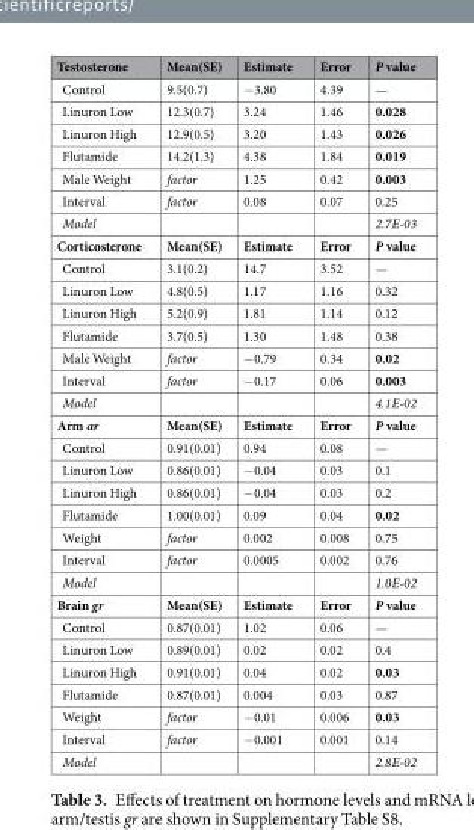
<table><thead><tr><td>Testosterone</td><td>Mean(SE)</td><td>Estimate</td><td>Error</td><td>P value</td></tr></thead><tbody><tr><td>Control</td><td>9.5(0.7)</td><td>−3.80</td><td>4.39</td><td>—</td></tr><tr><td>Linuron Low</td><td>12.3(0.7)</td><td>3.24</td><td>1.46</td><td>0.028</td></tr><tr><td>Linuron High</td><td>12.9(0.5)</td><td>3.20</td><td>1.43</td><td>0.026</td></tr><tr><td>Flutamide</td><td>14.2(1.3)</td><td>4.38</td><td>1.84</td><td>0.019</td></tr><tr><td>Male Weight</td><td>factor</td><td>1.25</td><td>0.42</td><td>0.003</td></tr><tr><td>Interval</td><td>factor</td><td>0.08</td><td>0.07</td><td>0.25</td></tr><tr><td>Model</td><td></td><td></td><td></td><td>2.7E-03</td></tr><tr><td>Corticosterone</td><td>Mean(SE)</td><td>Estimate</td><td>Error</td><td>P value</td></tr><tr><td>Control</td><td>3.1(0.2)</td><td>14.7</td><td>3.52</td><td>—</td></tr><tr><td>Linuron Low</td><td>4.8(0.5)</td><td>1.17</td><td>1.16</td><td>0.32</td></tr><tr><td>Linuron High</td><td>5.2(0.9)</td><td>1.81</td><td>1.14</td><td>0.12</td></tr><tr><td>Flutamide</td><td>3.7(0.5)</td><td>1.30</td><td>1.48</td><td>0.38</td></tr><tr><td>Male Weight</td><td>factor</td><td>−0.79</td><td>0.34</td><td>0.02</td></tr><tr><td>Interval</td><td>factor</td><td>−0.17</td><td>0.06</td><td>0.003</td></tr><tr><td>Model</td><td></td><td></td><td></td><td>4.1E-02</td></tr><tr><td>Arm ar</td><td>Mean(SE)</td><td>Estimate</td><td>Error</td><td>P value</td></tr><tr><td>Control</td><td>0.91(0.01)</td><td>0.94</td><td>0.08</td><td>—</td></tr><tr><td>Linuron Low</td><td>0.86(0.01)</td><td>−0.04</td><td>0.03</td><td>0.1</td></tr><tr><td>Linuron High</td><td>0.86(0.01)</td><td>−0.04</td><td>0.03</td><td>0.2</td></tr><tr><td>Flutamide</td><td>1.00(0.01)</td><td>0.09</td><td>0.04</td><td>0.02</td></tr><tr><td>Weight</td><td>factor</td><td>0.002</td><td>0.008</td><td>0.75</td></tr><tr><td>Interval</td><td>factor</td><td>0.0005</td><td>0.002</td><td>0.76</td></tr><tr><td>Model</td><td></td><td></td><td></td><td>1.0E-02</td></tr><tr><td>Brain gr</td><td>Mean(SE)</td><td>Estimate</td><td>Error</td><td>P value</td></tr><tr><td>Control</td><td>0.87(0.01)</td><td>1.02</td><td>0.06</td><td>—</td></tr><tr><td>Linuron Low</td><td>0.89(0.01)</td><td>0.02</td><td>0.02</td><td>0.4</td></tr><tr><td>Linuron High</td><td>0.91(0.01)</td><td>0.04</td><td>0.02</td><td>0.03</td></tr><tr><td>Flutamide</td><td>0.87(0.01)</td><td>0.004</td><td>0.03</td><td>0.87</td></tr><tr><td>Weight</td><td>factor</td><td>−0.01</td><td>0.006</td><td>0.03</td></tr><tr><td>Interval</td><td>factor</td><td>−0.001</td><td>0.001</td><td>0.14</td></tr><tr><td>Model</td><td></td><td></td><td></td><td>2.8E-02</td></tr></tbody></table>